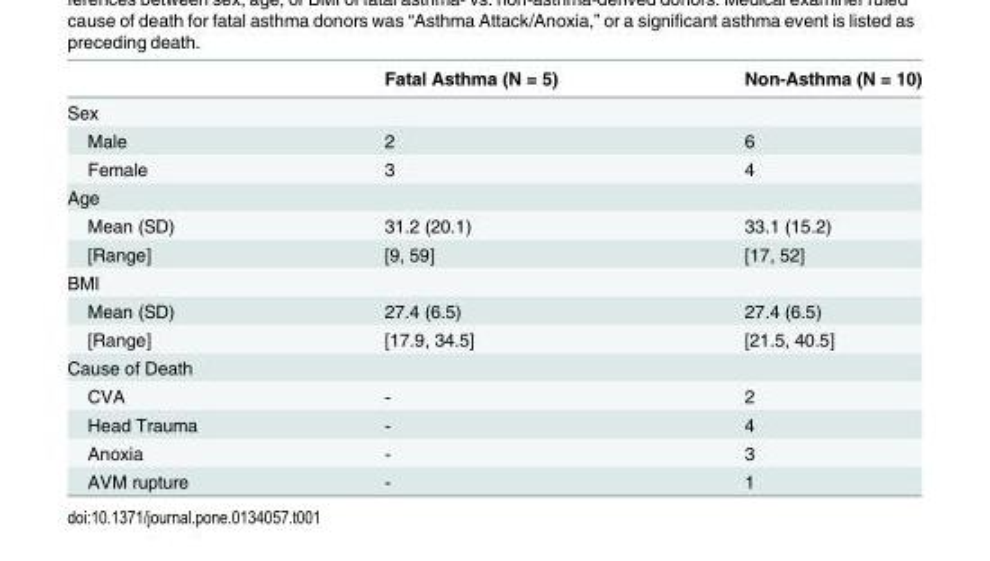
<table><thead><tr><td></td><td>Fatal Asthma (N = 5)</td><td>Non-Asthma (N = 10)</td></tr></thead><tbody><tr><td colspan="3">Sex</td></tr><tr><td>Male</td><td>2</td><td>6</td></tr><tr><td>Female</td><td>3</td><td>4</td></tr><tr><td colspan="3">Age</td></tr><tr><td>Mean (SD)</td><td>31.2 (20.1)</td><td>33.1 (15.2)</td></tr><tr><td>[Range]</td><td>[9, 59]</td><td>[17, 52]</td></tr><tr><td colspan="3">BMI</td></tr><tr><td>Mean (SD)</td><td>27.4 (6.5)</td><td>27.4 (6.5)</td></tr><tr><td>[Range]</td><td>[17.9, 34.5]</td><td>[21.5, 40.5]</td></tr><tr><td colspan="3">Cause of Death</td></tr><tr><td>CVA</td><td>-</td><td>2</td></tr><tr><td>Head Trauma</td><td>-</td><td>4</td></tr><tr><td>Anoxia</td><td>-</td><td>3</td></tr><tr><td>AVM rupture</td><td>-</td><td>1</td></tr></tbody></table>